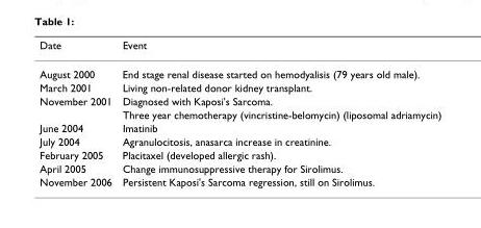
<table><thead><tr><td>Date</td><td>Event</td></tr></thead><tbody><tr><td>August 2000</td><td>End stage renal disease started on hemodyalisis (79 years old male).</td></tr><tr><td>March 2001</td><td>Living non-related donor kidney transplant.</td></tr><tr><td rowspan="2">November 2001</td><td>Diagnosed with Kaposi&#x27;s Sarcoma.</td></tr><tr><td>Three year chemotherapy (vincristine-belomycin) (liposomal adriamycin)</td></tr><tr><td>June 2004</td><td>Imatinib</td></tr><tr><td>July 2004</td><td>Agranulocitosis, anasarca increase in creatinine.</td></tr><tr><td>February 2005</td><td>Placitaxel (developed allergic rash).</td></tr><tr><td>April 2005</td><td>Change immunosuppressive therapy for Sirolimus.</td></tr><tr><td>November 2006</td><td>Persistent Kaposi&#x27;s Sarcoma regression, still on Sirolimus.</td></tr></tbody></table>